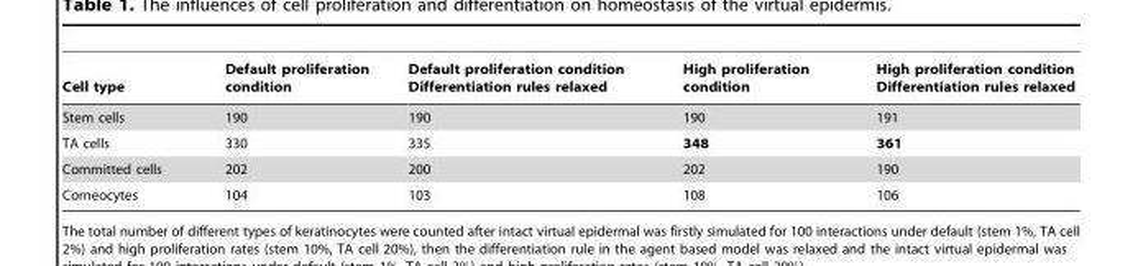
<table><thead><tr><td>Cell type</td><td>Default proliferation condition</td><td>Default proliferation condition Differentiation rules relaxed</td><td>High proliferation condition</td><td>High proliferation condition Differentiation rules relaxed</td></tr></thead><tbody><tr><td>Stem cells</td><td>190</td><td>190</td><td>190</td><td>191</td></tr><tr><td>TA cells</td><td>330</td><td>335</td><td>348</td><td>361</td></tr><tr><td>Committed cells</td><td>202</td><td>200</td><td>202</td><td>190</td></tr><tr><td>Corneocytes</td><td>104</td><td>103</td><td>108</td><td>106</td></tr></tbody></table>